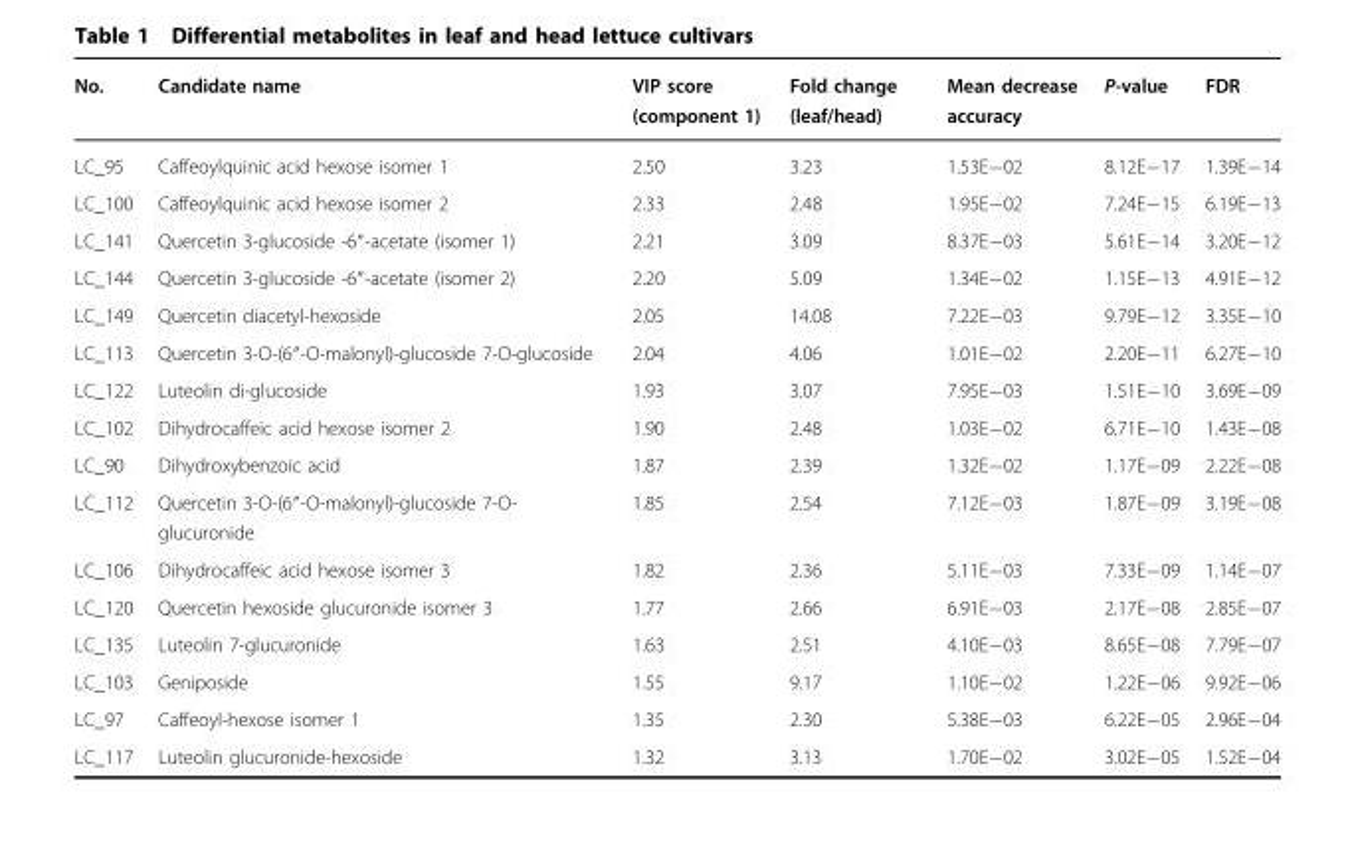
<table><thead><tr><td>No.</td><td>Candidate name</td><td>VIP score (component 1)</td><td>Fold change (leaf/head)</td><td>Mean decrease accuracy</td><td>P-value</td><td>FDR</td></tr></thead><tbody><tr><td>LC_95</td><td>Caffeoylquinic acid hexose isomer 1</td><td>2.50</td><td>3.23</td><td>1.53E−02</td><td>8.12E−17</td><td>1.39E−14</td></tr><tr><td>LC_100</td><td>Caffeoylquinic acid hexose isomer 2</td><td>2.33</td><td>2.48</td><td>1.95E−02</td><td>7.24E−15</td><td>6.19E−13</td></tr><tr><td>LC_141</td><td>Quercetin 3-glucoside -6″-acetate (isomer 1)</td><td>2.21</td><td>3.09</td><td>8.37E−03</td><td>5.61E−14</td><td>3.20E−12</td></tr><tr><td>LC_144</td><td>Quercetin 3-glucoside -6″-acetate (isomer 2)</td><td>2.20</td><td>5.09</td><td>1.34E−02</td><td>1.15E−13</td><td>4.91E−12</td></tr><tr><td>LC_149</td><td>Quercetin diacetyl-hexoside</td><td>2.05</td><td>14.08</td><td>7.22E−03</td><td>9.79E−12</td><td>3.35E−10</td></tr><tr><td>LC_113</td><td>Quercetin 3-O-(6″-O-malonyl)-glucoside 7-O-glucoside</td><td>2.04</td><td>4.06</td><td>1.01E−02</td><td>2.20E−11</td><td>6.27E−10</td></tr><tr><td>LC_122</td><td>Luteolin di-glucoside</td><td>1.93</td><td>3.07</td><td>7.95E−03</td><td>1.51E−10</td><td>3.69E−09</td></tr><tr><td>LC_102</td><td>Dihydrocaffeic acid hexose isomer 2</td><td>1.90</td><td>2.48</td><td>1.03E−02</td><td>6.71E−10</td><td>1.43E−08</td></tr><tr><td>LC_90</td><td>Dihydroxybenzoic acid</td><td>1.87</td><td>2.39</td><td>1.32E−02</td><td>1.17E−09</td><td>2.22E−08</td></tr><tr><td>LC_112</td><td>Quercetin 3-O-(6″-O-malonyl)-glucoside 7-O- glucuronide</td><td>1.85</td><td>2.54</td><td>7.12E−03</td><td>1.87E−09</td><td>3.19E−08</td></tr><tr><td>LC_106</td><td>Dihydrocaffeic acid hexose isomer 3</td><td>1.82</td><td>2.36</td><td>5.11E−03</td><td>7.33E−09</td><td>1.14E−07</td></tr><tr><td>LC_120</td><td>Quercetin hexoside glucuronide isomer 3</td><td>1.77</td><td>2.66</td><td>6.91E−03</td><td>2.17E−08</td><td>2.85E−07</td></tr><tr><td>LC_135</td><td>Luteolin 7-glucuronide</td><td>1.63</td><td>2.51</td><td>4.10E−03</td><td>8.65E−08</td><td>7.79E−07</td></tr><tr><td>LC_103</td><td>Geniposide</td><td>1.55</td><td>9.17</td><td>1.10E−02</td><td>1.22E−06</td><td>9.92E−06</td></tr><tr><td>LC_97</td><td>Caffeoyl-hexose isomer 1</td><td>1.35</td><td>2.30</td><td>5.38E−03</td><td>6.22E−05</td><td>2.96E−04</td></tr><tr><td>LC_117</td><td>Luteolin glucuronide-hexoside</td><td>1.32</td><td>3.13</td><td>1.70E−02</td><td>3.02E−05</td><td>1.52E−04</td></tr></tbody></table>